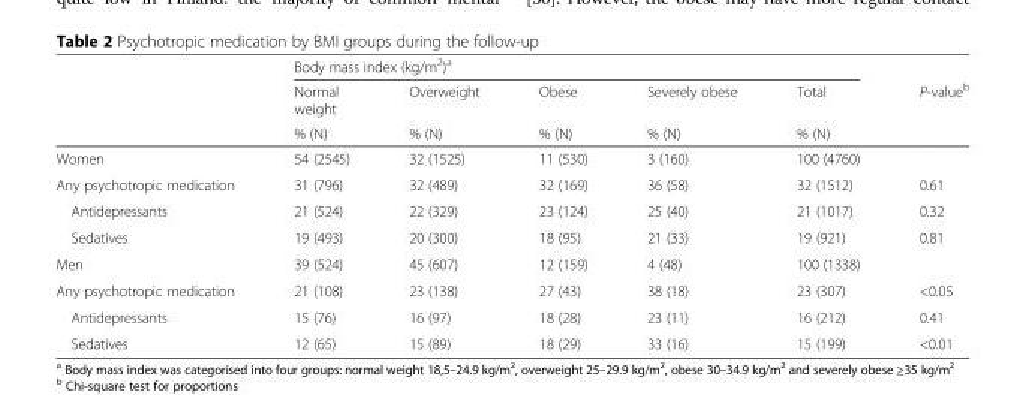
<table><thead><tr><td rowspan="3"></td><td colspan="5">Body mass index (kg/m<sup>2</sup>)<sup>a</sup></td><td rowspan="3">P-value<sup>b</sup></td></tr><tr><td rowspan="2">Normal weight % (N)</td><td rowspan="2">Overweight % (N)</td><td rowspan="2">Obese % (N)</td><td rowspan="2">Severely obese % (N)</td><td rowspan="2">Total % (N)</td></tr><tr></tr></thead><tbody><tr><td>Women</td><td>54 (2545)</td><td>32 (1525)</td><td>11 (530)</td><td>3 (160)</td><td>100 (4760)</td><td></td></tr><tr><td>Any psychotropic medication</td><td>31 (796)</td><td>32 (489)</td><td>32 (169)</td><td>36 (58)</td><td>32 (1512)</td><td>0.61</td></tr><tr><td>Antidepressants</td><td>21 (524)</td><td>22 (329)</td><td>23 (124)</td><td>25 (40)</td><td>21 (1017)</td><td>0.32</td></tr><tr><td>Sedatives</td><td>19 (493)</td><td>20 (300)</td><td>18 (95)</td><td>21 (33)</td><td>19 (921)</td><td>0.81</td></tr><tr><td>Men</td><td>39 (524)</td><td>45 (607)</td><td>12 (159)</td><td>4 (48)</td><td>100 (1338)</td><td></td></tr><tr><td>Any psychotropic medication</td><td>21 (108)</td><td>23 (138)</td><td>27 (43)</td><td>38 (18)</td><td>23 (307)</td><td>&lt;0.05</td></tr><tr><td>Antidepressants</td><td>15 (76)</td><td>16 (97)</td><td>18 (28)</td><td>23 (11)</td><td>16 (212)</td><td>0.41</td></tr><tr><td>Sedatives</td><td>12 (65)</td><td>15 (89)</td><td>18 (29)</td><td>33 (16)</td><td>15 (199)</td><td>&lt;0.01</td></tr></tbody></table>